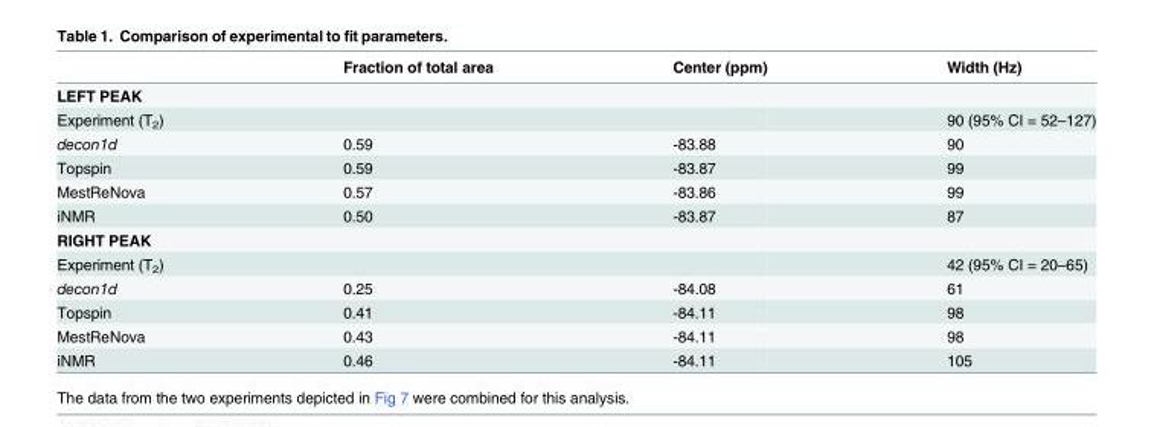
<table><thead><tr><td></td><td>Fraction of total area</td><td>Center (ppm)</td><td>Width (Hz)</td></tr></thead><tbody><tr><td colspan="4">LEFT PEAK</td></tr><tr><td>Experiment (T<sub>2</sub>)</td><td></td><td></td><td>90 (95% CI = 52–127)</td></tr><tr><td>decon1d</td><td>0.59</td><td>-83.88</td><td>90</td></tr><tr><td>Topspin</td><td>0.59</td><td>-83.87</td><td>99</td></tr><tr><td>MestReNova</td><td>0.57</td><td>-83.86</td><td>99</td></tr><tr><td>iNMR</td><td>0.50</td><td>-83.87</td><td>87</td></tr><tr><td colspan="4">RIGHT PEAK</td></tr><tr><td>Experiment (T<sub>2</sub>)</td><td></td><td></td><td>42 (95% CI = 20–65)</td></tr><tr><td>decon1d</td><td>0.25</td><td>-84.08</td><td>61</td></tr><tr><td>Topspin</td><td>0.41</td><td>-84.11</td><td>98</td></tr><tr><td>MestReNova</td><td>0.43</td><td>-84.11</td><td>98</td></tr><tr><td>iNMR</td><td>0.46</td><td>-84.11</td><td>105</td></tr></tbody></table>